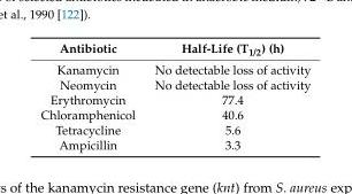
<table><thead><tr><td>Antibiotic</td><td>Half-Life (T<sub>1/2</sub>) (h)</td></tr></thead><tbody><tr><td>Kanamycin</td><td>No detectable loss of activity</td></tr><tr><td>Neomycin</td><td>No detectable loss of activity</td></tr><tr><td>Erythromycin</td><td>77.4</td></tr><tr><td>Chloramphenicol</td><td>40.6</td></tr><tr><td>Tetracycline</td><td>5.6</td></tr><tr><td>Ampicillin</td><td>3.3</td></tr></tbody></table>